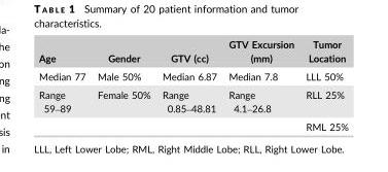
<table><thead><tr><td>Age</td><td>Gender</td><td>GTV (cc)</td><td>GTV Excursion (mm)</td><td>Tumor Location</td></tr></thead><tbody><tr><td>Median 77</td><td>Male 50%</td><td>Median 6.87</td><td>Median 7.8</td><td>LLL 50%</td></tr><tr><td rowspan="2">Range 59–89</td><td>Female 50%</td><td>Range 0.85–48.81</td><td>Range 4.1–26.8</td><td>RLL 25%</td></tr><tr><td></td><td></td><td></td><td>RML 25%</td></tr></tbody></table>